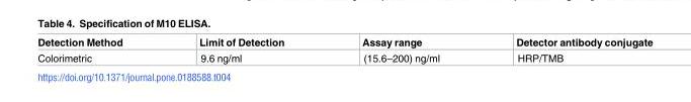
<table><thead><tr><td>Detection Method</td><td>Limit of Detection</td><td>Assay range</td><td>Detector antibody conjugate</td></tr></thead><tbody><tr><td>Colorimetric</td><td>9.6 ng/ml</td><td>(15.6–200) ng/ml</td><td>HRP/TMB</td></tr></tbody></table>